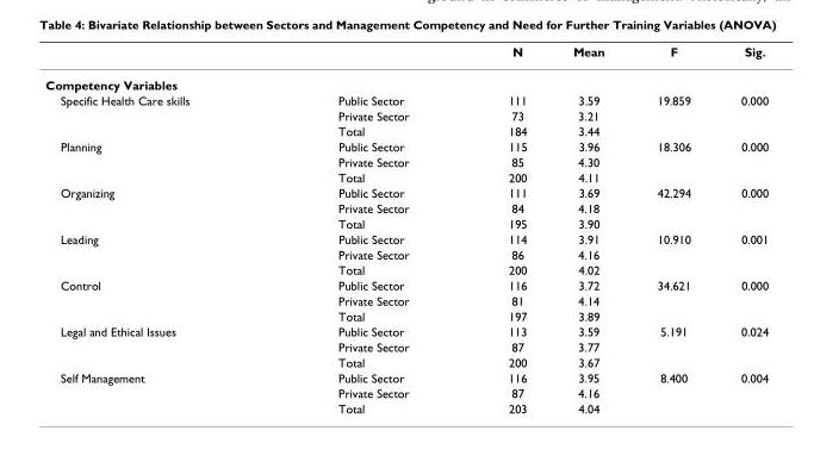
<table><thead><tr><td></td><td></td><td>N</td><td>Mean</td><td>F</td><td>Sig.</td></tr></thead><tbody><tr><td colspan="6">Competency Variables</td></tr><tr><td rowspan="3">Specific Health Care skills</td><td>Public Sector</td><td>111</td><td>3.59</td><td>19.859</td><td>0.000</td></tr><tr><td>Private Sector</td><td>73</td><td>3.21</td><td></td><td></td></tr><tr><td>Total</td><td>184</td><td>3.44</td><td></td><td></td></tr><tr><td rowspan="3">Planning</td><td>Public Sector</td><td>115</td><td>3.96</td><td>18.306</td><td>0.000</td></tr><tr><td>Private Sector</td><td>85</td><td>4.30</td><td></td><td></td></tr><tr><td>Total</td><td>200</td><td>4.11</td><td></td><td></td></tr><tr><td rowspan="3">Organizing</td><td>Public Sector</td><td>111</td><td>3.69</td><td>42.294</td><td>0.000</td></tr><tr><td>Private Sector</td><td>84</td><td>4.18</td><td></td><td></td></tr><tr><td>Total</td><td>195</td><td>3.90</td><td></td><td></td></tr><tr><td rowspan="3">Leading</td><td>Public Sector</td><td>114</td><td>3.91</td><td>10.910</td><td>0.001</td></tr><tr><td>Private Sector</td><td>86</td><td>4.16</td><td></td><td></td></tr><tr><td>Total</td><td>200</td><td>4.02</td><td></td><td></td></tr><tr><td rowspan="3">Control</td><td>Public Sector</td><td>116</td><td>3.72</td><td>34.621</td><td>0.000</td></tr><tr><td>Private Sector</td><td>81</td><td>4.14</td><td></td><td></td></tr><tr><td>Total</td><td>197</td><td>3.89</td><td></td><td></td></tr><tr><td rowspan="3">Legal and Ethical Issues</td><td>Public Sector</td><td>113</td><td>3.59</td><td>5.191</td><td>0.024</td></tr><tr><td>Private Sector</td><td>87</td><td>3.77</td><td></td><td></td></tr><tr><td>Total</td><td>200</td><td>3.67</td><td></td><td></td></tr><tr><td rowspan="3">Self Management</td><td>Public Sector</td><td>116</td><td>3.95</td><td>8.400</td><td>0.004</td></tr><tr><td>Private Sector</td><td>87</td><td>4.16</td><td></td><td></td></tr><tr><td>Total</td><td>203</td><td>4.04</td><td></td><td></td></tr></tbody></table>